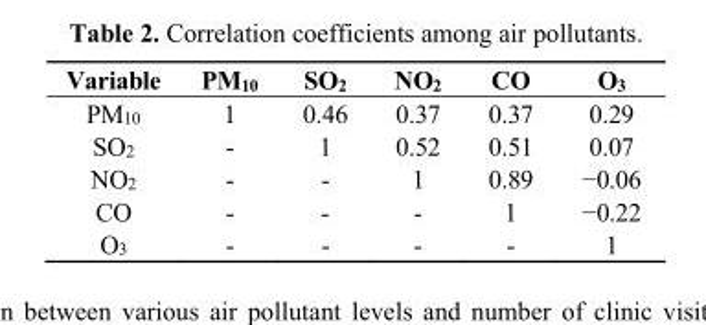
<table><thead><tr><td>Variable</td><td>PM<sub>10</sub></td><td>SO<sub>2</sub></td><td>NO<sub>2</sub></td><td>CO</td><td>O<sub>3</sub></td></tr></thead><tbody><tr><td>PM<sub>10</sub></td><td>1</td><td>0.46</td><td>0.37</td><td>0.37</td><td>0.29</td></tr><tr><td>SO<sub>2</sub></td><td>-</td><td>1</td><td>0.52</td><td>0.51</td><td>0.07</td></tr><tr><td>NO<sub>2</sub></td><td>-</td><td>-</td><td>1</td><td>0.89</td><td>−0.06</td></tr><tr><td>CO</td><td>-</td><td>-</td><td>-</td><td>1</td><td>−0.22</td></tr><tr><td>O<sub>3</sub></td><td>-</td><td>-</td><td>-</td><td>-</td><td>1</td></tr></tbody></table>